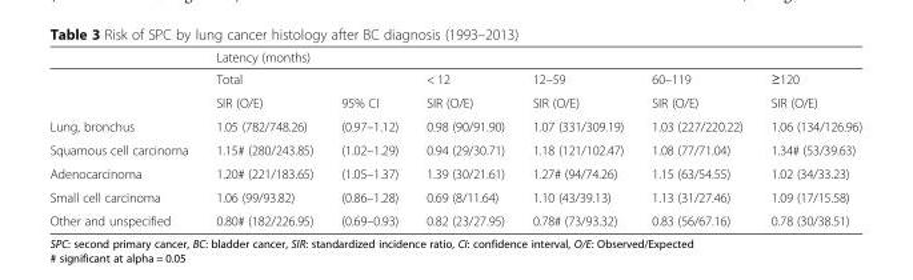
<table><thead><tr><td rowspan="3"></td><td colspan="6">Latency (months)</td></tr><tr><td colspan="2">Total</td><td rowspan="2">&lt; 12 SIR (O/E)</td><td rowspan="2">12–59 SIR (O/E)</td><td rowspan="2">60–119 SIR (O/E)</td><td rowspan="2">≥120 SIR (O/E)</td></tr><tr><td>SIR (O/E)</td><td>95% CI</td></tr></thead><tbody><tr><td>Lung, bronchus</td><td>1.05 (782/748.26)</td><td>(0.97–1.12)</td><td>0.98 (90/91.90)</td><td>1.07 (331/309.19)</td><td>1.03 (227/220.22)</td><td>1.06 (134/126.96)</td></tr><tr><td>Squamous cell carcinoma</td><td>1.15# (280/243.85)</td><td>(1.02–1.29)</td><td>0.94 (29/30.71)</td><td>1.18 (121/102.47)</td><td>1.08 (77/71.04)</td><td>1.34# (53/39.63)</td></tr><tr><td>Adenocarcinoma</td><td>1.20# (221/183.65)</td><td>(1.05–1.37)</td><td>1.39 (30/21.61)</td><td>1.27# (94/74.26)</td><td>1.15 (63/54.55)</td><td>1.02 (34/33.23)</td></tr><tr><td>Small cell carcinoma</td><td>1.06 (99/93.82)</td><td>(0.86–1.28)</td><td>0.69 (8/11.64)</td><td>1.10 (43/39.13)</td><td>1.13 (31/27.46)</td><td>1.09 (17/15.58)</td></tr><tr><td>Other and unspecified</td><td>0.80# (182/226.95)</td><td>(0.69–0.93)</td><td>0.82 (23/27.95)</td><td>0.78# (73/93.32)</td><td>0.83 (56/67.16)</td><td>0.78 (30/38.51)</td></tr></tbody></table>